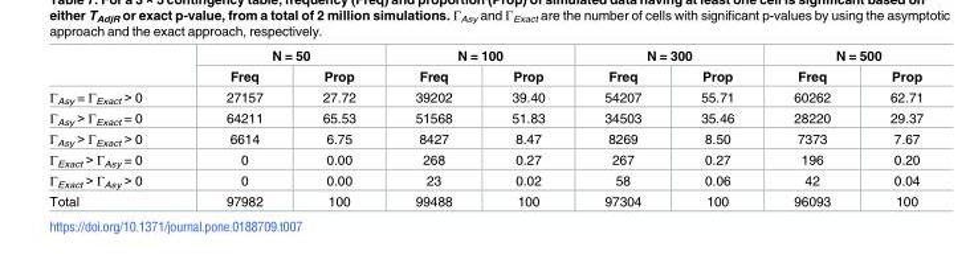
<table><thead><tr><td rowspan="2"></td><td colspan="2">N = 50</td><td colspan="2">N = 100</td><td colspan="2">N = 300</td><td colspan="2">N = 500</td></tr><tr><td>Freq</td><td>Prop</td><td>Freq</td><td>Prop</td><td>Freq</td><td>Prop</td><td>Freq</td><td>Prop</td></tr></thead><tbody><tr><td>Γ<sub>Asy</sub> = Γ<sub>Exact</sub> &gt; 0</td><td>27157</td><td>27.72</td><td>39202</td><td>39.40</td><td>54207</td><td>55.71</td><td>60262</td><td>62.71</td></tr><tr><td>Γ<sub>Asy</sub> &gt; Γ<sub>Exact</sub> = 0</td><td>64211</td><td>65.53</td><td>51568</td><td>51.83</td><td>34503</td><td>35.46</td><td>28220</td><td>29.37</td></tr><tr><td>Γ<sub>Asy</sub> &gt; Γ<sub>Exact</sub> &gt; 0</td><td>6614</td><td>6.75</td><td>8427</td><td>8.47</td><td>8269</td><td>8.50</td><td>7373</td><td>7.67</td></tr><tr><td>Γ<sub>Exact</sub> &gt; Γ<sub>Asy</sub> = 0</td><td>0</td><td>0.00</td><td>268</td><td>0.27</td><td>267</td><td>0.27</td><td>196</td><td>0.20</td></tr><tr><td>Γ<sub>Exact</sub> &gt; Γ<sub>Asy</sub> &gt; 0</td><td>0</td><td>0.00</td><td>23</td><td>0.02</td><td>58</td><td>0.06</td><td>42</td><td>0.04</td></tr><tr><td>Total</td><td>97982</td><td>100</td><td>99488</td><td>100</td><td>97304</td><td>100</td><td>96093</td><td>100</td></tr></tbody></table>